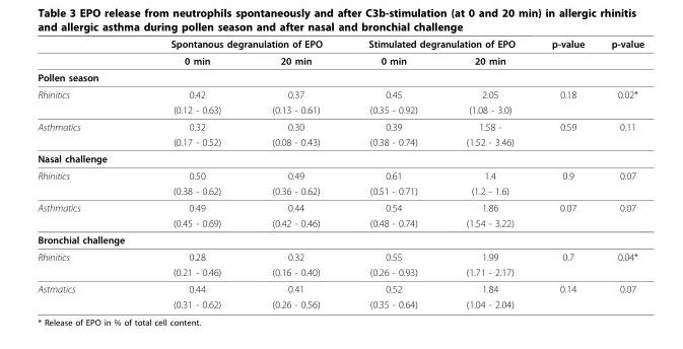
<table><thead><tr><td rowspan="2"></td><td colspan="2">Spontanous degranulation of EPO</td><td colspan="2">Stimulated degranulation of EPO</td><td rowspan="2">p-value</td><td rowspan="2">p-value</td></tr><tr><td>0 min</td><td>20 min</td><td>0 min</td><td>20 min</td></tr></thead><tbody><tr><td colspan="7">Pollen season</td></tr><tr><td rowspan="2">Rhinitics</td><td>0.42</td><td>0.37</td><td>0.45</td><td>2.05</td><td>0.18</td><td>0.02*</td></tr><tr><td>(0.12 - 0.63)</td><td>(0.13 - 0.61)</td><td>(0.35 - 0.92)</td><td>(1.08 - 3.0)</td><td></td><td></td></tr><tr><td rowspan="2">Asthmatics</td><td>0.32</td><td>0.30</td><td>0.39</td><td>1.58 -</td><td>0.59</td><td>0.11</td></tr><tr><td>(0.17 - 0.52)</td><td>(0.08 - 0.43)</td><td>(0.38 - 0.74)</td><td>(1.52 - 3.46)</td><td></td><td></td></tr><tr><td colspan="7">Nasal challenge</td></tr><tr><td rowspan="2">Rhinitics</td><td>0.50</td><td>0.49</td><td>0.61</td><td>1.4</td><td>0.9</td><td>0.07</td></tr><tr><td>(0.38 - 0.62)</td><td>(0.36 - 0.62)</td><td>(0.51 - 0.71)</td><td>(1.2 - 1.6)</td><td></td><td></td></tr><tr><td rowspan="2">Asthmatics</td><td>0.49</td><td>0.44</td><td>0.54</td><td>1.86</td><td>0.07</td><td>0.07</td></tr><tr><td>(0.45 - 0.69)</td><td>(0.42 - 0.46)</td><td>(0.48 - 0.74)</td><td>(1.54 - 3.22)</td><td></td><td></td></tr><tr><td colspan="7">Bronchial challenge</td></tr><tr><td rowspan="2">Rhinitics</td><td>0.28</td><td>0.32</td><td>0.55</td><td>1.99</td><td>0.7</td><td>0.04*</td></tr><tr><td>(0.21 - 0.46)</td><td>(0.16 - 0.40)</td><td>(0.26 - 0.93)</td><td>(1.71 - 2.17)</td><td></td><td></td></tr><tr><td rowspan="2">Astmatics</td><td>0.44</td><td>0.41</td><td>0.52</td><td>1.84</td><td>0.14</td><td>0.07</td></tr><tr><td>(0.31 - 0.62)</td><td>(0.26 - 0.56)</td><td>(0.35 - 0.64)</td><td>(1.04 - 2.04)</td><td></td><td></td></tr></tbody></table>